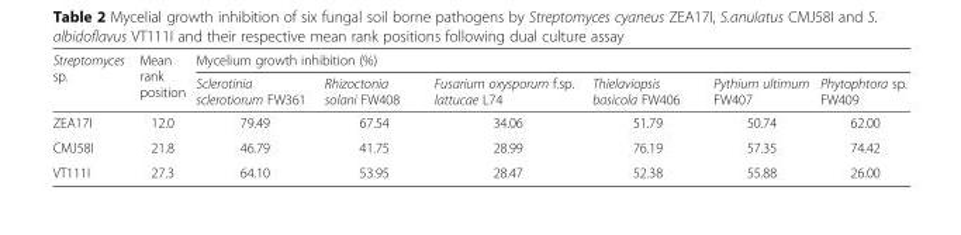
<table><thead><tr><td rowspan="2">Streptomyces sp.</td><td rowspan="2">Mean rank position</td><td colspan="6">Mycelium growth inhibition (%)</td></tr><tr><td>Sclerotinia sclerotiorum FW361</td><td>Rhizoctonia solani FW408</td><td>Fusarium oxysporum f.sp. lattucae L74</td><td>Thielaviopsis basicola FW406</td><td>Pythium ultimum FW407</td><td>Phytophtora sp. FW409</td></tr></thead><tbody><tr><td>ZEA17I</td><td>12.0</td><td>79.49</td><td>67.54</td><td>34.06</td><td>51.79</td><td>50.74</td><td>62.00</td></tr><tr><td>CMJ58I</td><td>21.8</td><td>46.79</td><td>41.75</td><td>28.99</td><td>76.19</td><td>57.35</td><td>74.42</td></tr><tr><td>VT111I</td><td>27.3</td><td>64.10</td><td>53.95</td><td>28.47</td><td>52.38</td><td>55.88</td><td>26.00</td></tr></tbody></table>